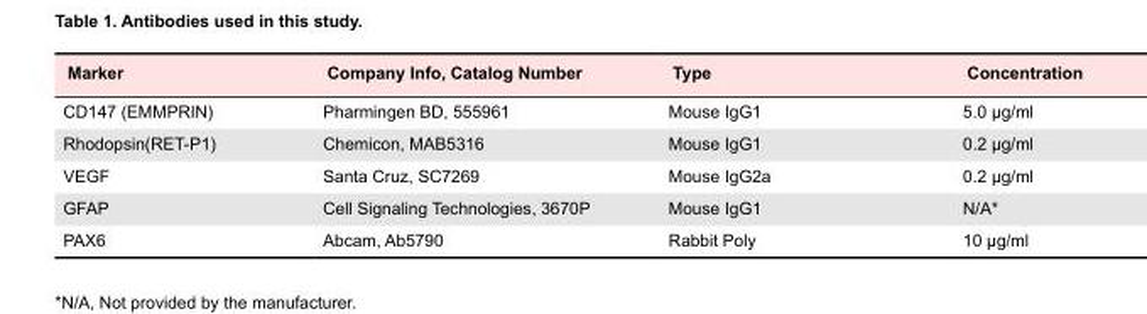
<table><tbody><tr><td>Marker</td><td>Company Info, Catalog Number</td><td>Type</td><td>Concentration</td></tr><tr><td>CD147 (EMMPRIN)</td><td>Pharmingen BD, 555961</td><td>Mouse IgG1</td><td>5.0 μg/ml</td></tr><tr><td>Rhodopsin(RET-P1)</td><td>Chemicon, MAB5316</td><td>Mouse IgG1</td><td>0.2 μg/ml</td></tr><tr><td>VEGF</td><td>Santa Cruz, SC7269</td><td>Mouse IgG2a</td><td>0.2 μg/ml</td></tr><tr><td>GFAP</td><td>Cell Signaling Technologies, 3670P</td><td>Mouse IgG1</td><td>N/A*</td></tr><tr><td>PAX6</td><td>Abcam, Ab5790</td><td>Rabbit Poly</td><td>10 μg/ml</td></tr></tbody></table>